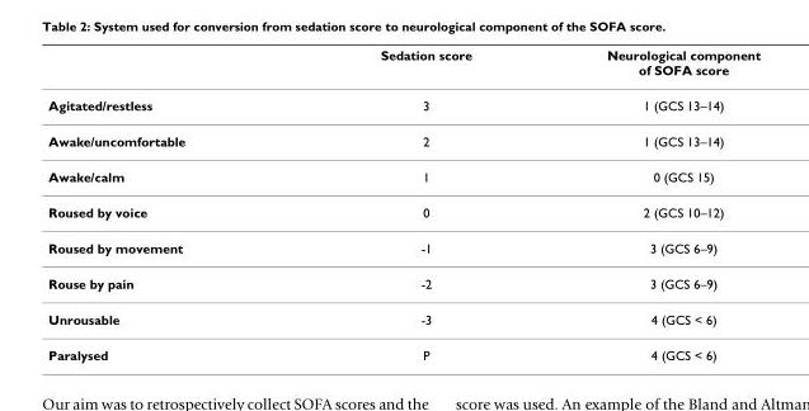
<table><thead><tr><td></td><td>Sedation score</td><td>Neurological component of SOFA score</td></tr></thead><tbody><tr><td>Agitated/restless</td><td>3</td><td>1 (GCS 13–14)</td></tr><tr><td>Awake/uncomfortable</td><td>2</td><td>1 (GCS 13–14)</td></tr><tr><td>Awake/calm</td><td>1</td><td>0 (GCS 15)</td></tr><tr><td>Roused by voice</td><td>0</td><td>2 (GCS 10–12)</td></tr><tr><td>Roused by movement</td><td>-1</td><td>3 (GCS 6–9)</td></tr><tr><td>Rouse by pain</td><td>-2</td><td>3 (GCS 6–9)</td></tr><tr><td>Unrousable</td><td>-3</td><td>4 (GCS &lt; 6)</td></tr><tr><td>Paralysed</td><td>P</td><td>4 (GCS &lt; 6)</td></tr></tbody></table>